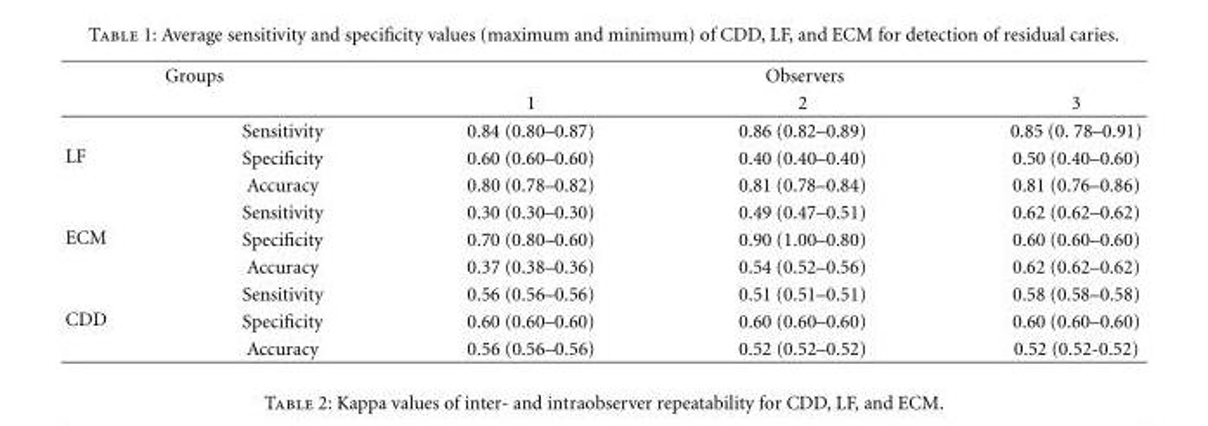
<table><thead><tr><td colspan="2">Groups</td><td colspan="3">Observers</td></tr><tr><td></td><td></td><td>1</td><td>2</td><td>3</td></tr></thead><tbody><tr><td rowspan="3">LF</td><td>Sensitivity</td><td>0.84 (0.80–0.87)</td><td>0.86 (0.82–0.89)</td><td>0.85 (0. 78–0.91)</td></tr><tr><td>Specificity</td><td>0.60 (0.60–0.60)</td><td>0.40 (0.40–0.40)</td><td>0.50 (0.40–0.60)</td></tr><tr><td>Accuracy</td><td>0.80 (0.78–0.82)</td><td>0.81 (0.78–0.84)</td><td>0.81 (0.76–0.86)</td></tr><tr><td rowspan="3">ECM</td><td>Sensitivity</td><td>0.30 (0.30–0.30)</td><td>0.49 (0.47–0.51)</td><td>0.62 (0.62–0.62)</td></tr><tr><td>Specificity</td><td>0.70 (0.80–0.60)</td><td>0.90 (1.00–0.80)</td><td>0.60 (0.60–0.60)</td></tr><tr><td>Accuracy</td><td>0.37 (0.38–0.36)</td><td>0.54 (0.52–0.56)</td><td>0.62 (0.62–0.62)</td></tr><tr><td rowspan="3">CDD</td><td>Sensitivity</td><td>0.56 (0.56–0.56)</td><td>0.51 (0.51–0.51)</td><td>0.58 (0.58–0.58)</td></tr><tr><td>Specificity</td><td>0.60 (0.60–0.60)</td><td>0.60 (0.60–0.60)</td><td>0.60 (0.60–0.60)</td></tr><tr><td>Accuracy</td><td>0.56 (0.56–0.56)</td><td>0.52 (0.52–0.52)</td><td>0.52 (0.52-0.52)</td></tr></tbody></table>